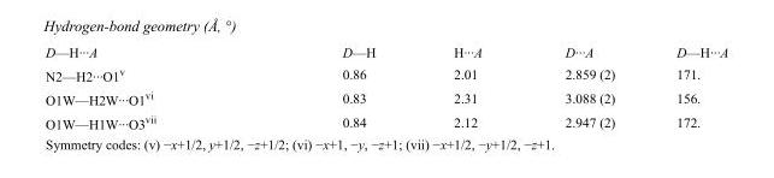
<table><tbody><tr><td>D—H···A</td><td>D—H</td><td>H···A</td><td>D···A</td><td>D—H···A</td></tr><tr><td>N2—H2···O1<sup>v</sup></td><td>0.86</td><td>2.01</td><td>2.859 (2)</td><td>171.</td></tr><tr><td>O1W—H2W···O1<sup>vi</sup></td><td>0.83</td><td>2.31</td><td>3.088 (2)</td><td>156.</td></tr><tr><td>O1W—H1W···O3<sup>vii</sup></td><td>0.84</td><td>2.12</td><td>2.947 (2)</td><td>172.</td></tr></tbody></table>